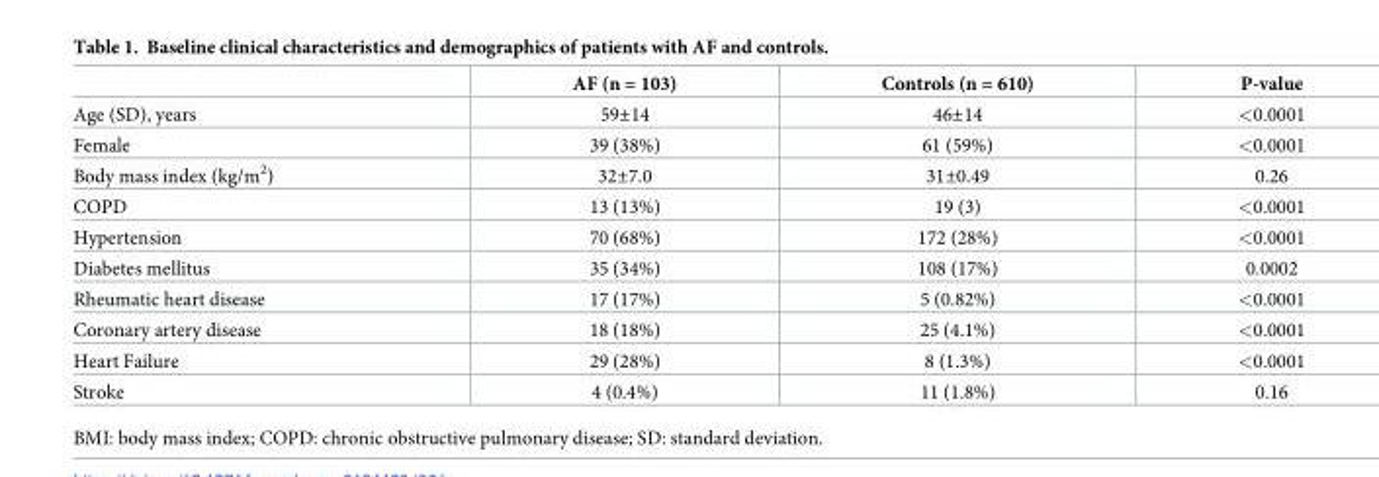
<table><thead><tr><td></td><td>AF (n = 103)</td><td>Controls (n = 610)</td><td>P-value</td></tr></thead><tbody><tr><td>Age (SD), years</td><td>59±14</td><td>46±14</td><td>&lt;0.0001</td></tr><tr><td>Female</td><td>39 (38%)</td><td>61 (59%)</td><td>&lt;0.0001</td></tr><tr><td>Body mass index (kg/m<sup>2</sup>)</td><td>32±7.0</td><td>31±0.49</td><td>0.26</td></tr><tr><td>COPD</td><td>13 (13%)</td><td>19 (3)</td><td>&lt;0.0001</td></tr><tr><td>Hypertension</td><td>70 (68%)</td><td>172 (28%)</td><td>&lt;0.0001</td></tr><tr><td>Diabetes mellitus</td><td>35 (34%)</td><td>108 (17%)</td><td>0.0002</td></tr><tr><td>Rheumatic heart disease</td><td>17 (17%)</td><td>5 (0.82%)</td><td>&lt;0.0001</td></tr><tr><td>Coronary artery disease</td><td>18 (18%)</td><td>25 (4.1%)</td><td>&lt;0.0001</td></tr><tr><td>Heart Failure</td><td>29 (28%)</td><td>8 (1.3%)</td><td>&lt;0.0001</td></tr><tr><td>Stroke</td><td>4 (0.4%)</td><td>11 (1.8%)</td><td>0.16</td></tr></tbody></table>